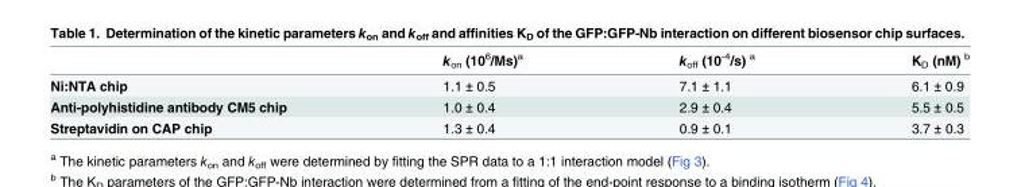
<table><thead><tr><td></td><td>k<sub>on</sub> (10<sup>6</sup>/Ms)<sup>a</sup></td><td>k<sub>off</sub> (10<sup>-4</sup>/s) <sup>a</sup></td><td>K<sub>D</sub> (nM) <sup>b</sup></td></tr></thead><tbody><tr><td>Ni:NTA chip</td><td>1.1 ± 0.5</td><td>7.1 ± 1.1</td><td>6.1 ± 0.9</td></tr><tr><td>Anti-polyhistidine antibody CM5 chip</td><td>1.0 ± 0.4</td><td>2.9 ± 0.4</td><td>5.5 ± 0.5</td></tr><tr><td>Streptavidin on CAP chip</td><td>1.3 ± 0.4</td><td>0.9 ± 0.1</td><td>3.7 ± 0.3</td></tr></tbody></table>